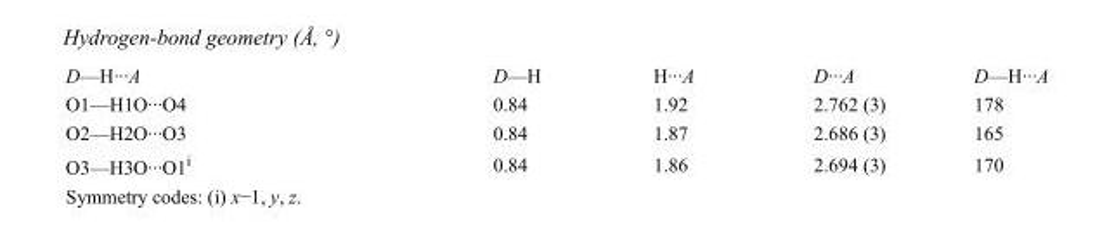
<table><tbody><tr><td>D—H···A</td><td>D—H</td><td>H···A</td><td>D···A</td><td>D—H···A</td></tr><tr><td>O1—H1O···O4</td><td>0.84</td><td>1.92</td><td>2.762 (3)</td><td>178</td></tr><tr><td>O2—H2O···O3</td><td>0.84</td><td>1.87</td><td>2.686 (3)</td><td>165</td></tr><tr><td>O3—H3O···O1<sup>i</sup></td><td>0.84</td><td>1.86</td><td>2.694 (3)</td><td>170</td></tr></tbody></table>